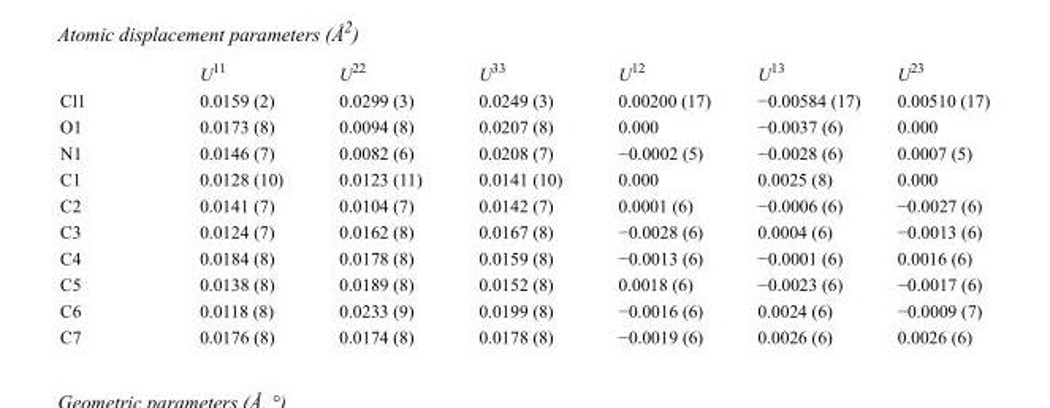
<table><thead><tr><td></td><td>U<sup>11</sup></td><td>U<sup>22</sup></td><td>U<sup>33</sup></td><td>U<sup>12</sup></td><td>U<sup>13</sup></td><td>U<sup>23</sup></td></tr></thead><tbody><tr><td>Cl1</td><td>0.0159 (2)</td><td>0.0299 (3)</td><td>0.0249 (3)</td><td>0.00200 (17)</td><td>−0.00584 (17)</td><td>0.00510 (17)</td></tr><tr><td>O1</td><td>0.0173 (8)</td><td>0.0094 (8)</td><td>0.0207 (8)</td><td>0.000</td><td>−0.0037 (6)</td><td>0.000</td></tr><tr><td>N1</td><td>0.0146 (7)</td><td>0.0082 (6)</td><td>0.0208 (7)</td><td>−0.0002 (5)</td><td>−0.0028 (6)</td><td>0.0007 (5)</td></tr><tr><td>C1</td><td>0.0128 (10)</td><td>0.0123 (11)</td><td>0.0141 (10)</td><td>0.000</td><td>0.0025 (8)</td><td>0.000</td></tr><tr><td>C2</td><td>0.0141 (7)</td><td>0.0104 (7)</td><td>0.0142 (7)</td><td>0.0001 (6)</td><td>−0.0006 (6)</td><td>−0.0027 (6)</td></tr><tr><td>C3</td><td>0.0124 (7)</td><td>0.0162 (8)</td><td>0.0167 (8)</td><td>−0.0028 (6)</td><td>0.0004 (6)</td><td>−0.0013 (6)</td></tr><tr><td>C4</td><td>0.0184 (8)</td><td>0.0178 (8)</td><td>0.0159 (8)</td><td>−0.0013 (6)</td><td>−0.0001 (6)</td><td>0.0016 (6)</td></tr><tr><td>C5</td><td>0.0138 (8)</td><td>0.0189 (8)</td><td>0.0152 (8)</td><td>0.0018 (6)</td><td>−0.0023 (6)</td><td>−0.0017 (6)</td></tr><tr><td>C6</td><td>0.0118 (8)</td><td>0.0233 (9)</td><td>0.0199 (8)</td><td>−0.0016 (6)</td><td>0.0024 (6)</td><td>−0.0009 (7)</td></tr><tr><td>C7</td><td>0.0176 (8)</td><td>0.0174 (8)</td><td>0.0178 (8)</td><td>−0.0019 (6)</td><td>0.0026 (6)</td><td>0.0026 (6)</td></tr></tbody></table>